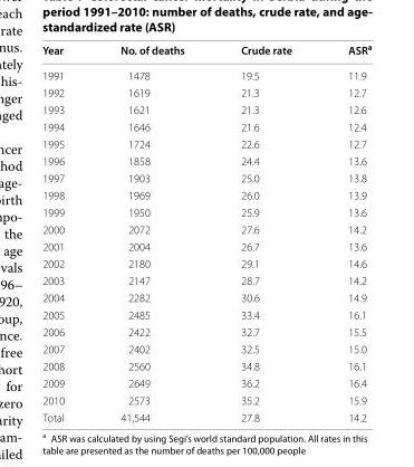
<table><thead><tr><td>Year</td><td>No. of deaths</td><td>Crude rate</td><td>ASR<sup>a</sup></td></tr></thead><tbody><tr><td>1991</td><td>1478</td><td>19.5</td><td>11.9</td></tr><tr><td>1992</td><td>1619</td><td>21.3</td><td>12.7</td></tr><tr><td>1993</td><td>1621</td><td>21.3</td><td>12.6</td></tr><tr><td>1994</td><td>1646</td><td>21.6</td><td>12.4</td></tr><tr><td>1995</td><td>1724</td><td>22.6</td><td>12.7</td></tr><tr><td>1996</td><td>1858</td><td>24.4</td><td>13.6</td></tr><tr><td>1997</td><td>1903</td><td>25.0</td><td>13.8</td></tr><tr><td>1998</td><td>1969</td><td>26.0</td><td>13.9</td></tr><tr><td>1999</td><td>1950</td><td>25.9</td><td>13.6</td></tr><tr><td>2000</td><td>2072</td><td>27.6</td><td>14.2</td></tr><tr><td>2001</td><td>2004</td><td>26.7</td><td>13.6</td></tr><tr><td>2002</td><td>2180</td><td>29.1</td><td>14.6</td></tr><tr><td>2003</td><td>2147</td><td>28.7</td><td>14.2</td></tr><tr><td>2004</td><td>2282</td><td>30.6</td><td>14.9</td></tr><tr><td>2005</td><td>2485</td><td>33.4</td><td>16.1</td></tr><tr><td>2006</td><td>2422</td><td>32.7</td><td>15.5</td></tr><tr><td>2007</td><td>2402</td><td>32.5</td><td>15.0</td></tr><tr><td>2008</td><td>2560</td><td>34.8</td><td>16.1</td></tr><tr><td>2009</td><td>2649</td><td>36.2</td><td>16.4</td></tr><tr><td>2010</td><td>2573</td><td>35.2</td><td>15.9</td></tr><tr><td>Total</td><td>41,544</td><td>27.8</td><td>14.2</td></tr></tbody></table>